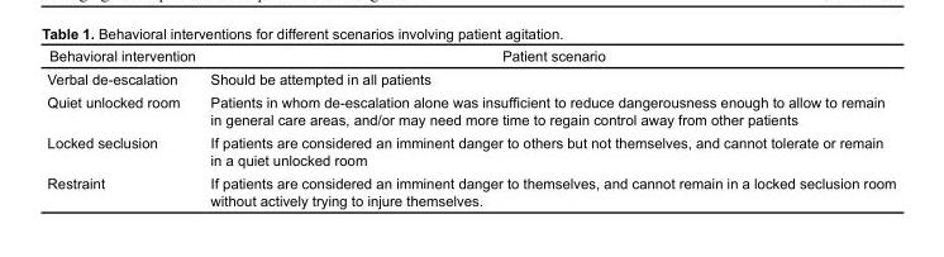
<table><thead><tr><td>Behavioral intervention</td><td>Patient scenario</td></tr></thead><tbody><tr><td>Verbal de-escalation</td><td>Should be attempted in all patients</td></tr><tr><td>Quiet unlocked room</td><td>Patients in whom de-escalation alone was insufficient to reduce dangerousness enough to allow to remain in general care areas, and/or may need more time to regain control away from other patients</td></tr><tr><td>Locked seclusion</td><td>If patients are considered an imminent danger to others but not themselves, and cannot tolerate or remain in a quiet unlocked room</td></tr><tr><td>Restraint</td><td>If patients are considered an imminent danger to themselves, and cannot remain in a locked seclusion room without actively trying to injure themselves.</td></tr></tbody></table>